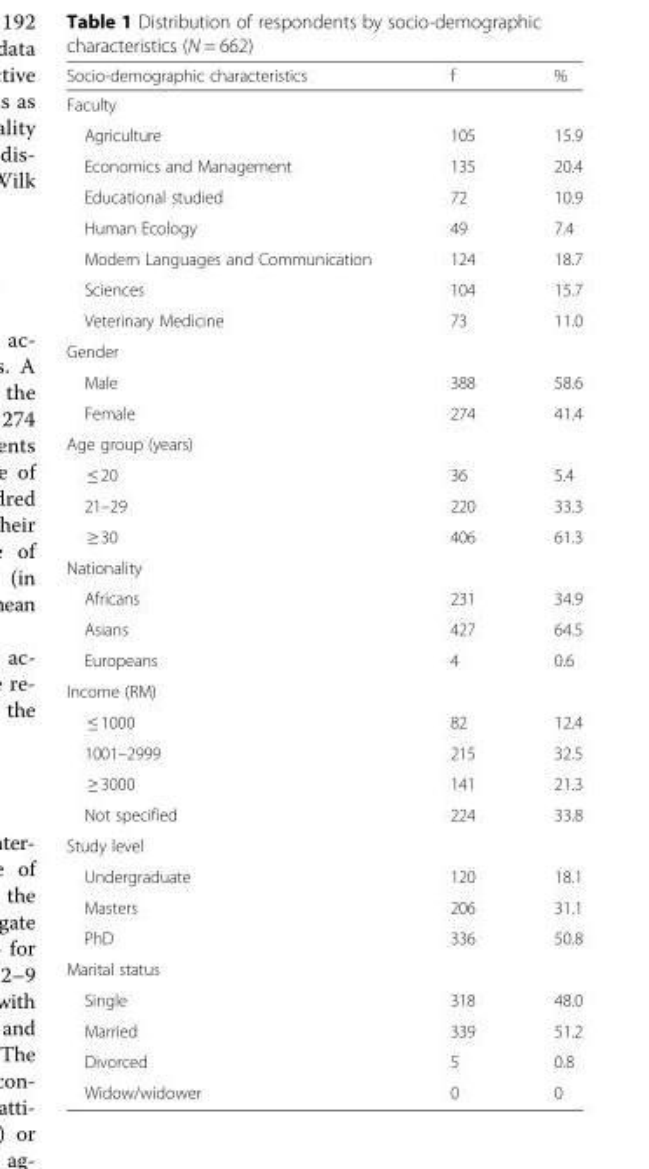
<table><thead><tr><td>Socio-demographic characteristics</td><td>f</td><td>%</td></tr></thead><tbody><tr><td colspan="3">Faculty</td></tr><tr><td>Agriculture</td><td>105</td><td>15.9</td></tr><tr><td>Economics and Management</td><td>135</td><td>20.4</td></tr><tr><td>Educational studied</td><td>72</td><td>10.9</td></tr><tr><td>Human Ecology</td><td>49</td><td>7.4</td></tr><tr><td>Modern Languages and Communication</td><td>124</td><td>18.7</td></tr><tr><td>Sciences</td><td>104</td><td>15.7</td></tr><tr><td>Veterinary Medicine</td><td>73</td><td>11.0</td></tr><tr><td colspan="3">Gender</td></tr><tr><td>Male</td><td>388</td><td>58.6</td></tr><tr><td>Female</td><td>274</td><td>41.4</td></tr><tr><td colspan="3">Age group (years)</td></tr><tr><td>≤ 20</td><td>36</td><td>5.4</td></tr><tr><td>21–29</td><td>220</td><td>33.3</td></tr><tr><td>≥ 30</td><td>406</td><td>61.3</td></tr><tr><td colspan="3">Nationality</td></tr><tr><td>Africans</td><td>231</td><td>34.9</td></tr><tr><td>Asians</td><td>427</td><td>64.5</td></tr><tr><td>Europeans</td><td>4</td><td>0.6</td></tr><tr><td colspan="3">Income (RM)</td></tr><tr><td>≤ 1000</td><td>82</td><td>12.4</td></tr><tr><td>1001–2999</td><td>215</td><td>32.5</td></tr><tr><td>≥ 3000</td><td>141</td><td>21.3</td></tr><tr><td>Not specified</td><td>224</td><td>33.8</td></tr><tr><td colspan="3">Study level</td></tr><tr><td>Undergraduate</td><td>120</td><td>18.1</td></tr><tr><td>Masters</td><td>206</td><td>31.1</td></tr><tr><td>PhD</td><td>336</td><td>50.8</td></tr><tr><td colspan="3">Marital status</td></tr><tr><td>Single</td><td>318</td><td>48.0</td></tr><tr><td>Married</td><td>339</td><td>51.2</td></tr><tr><td>Divorced</td><td>5</td><td>0.8</td></tr><tr><td>Widow/widower</td><td>0</td><td>0</td></tr></tbody></table>